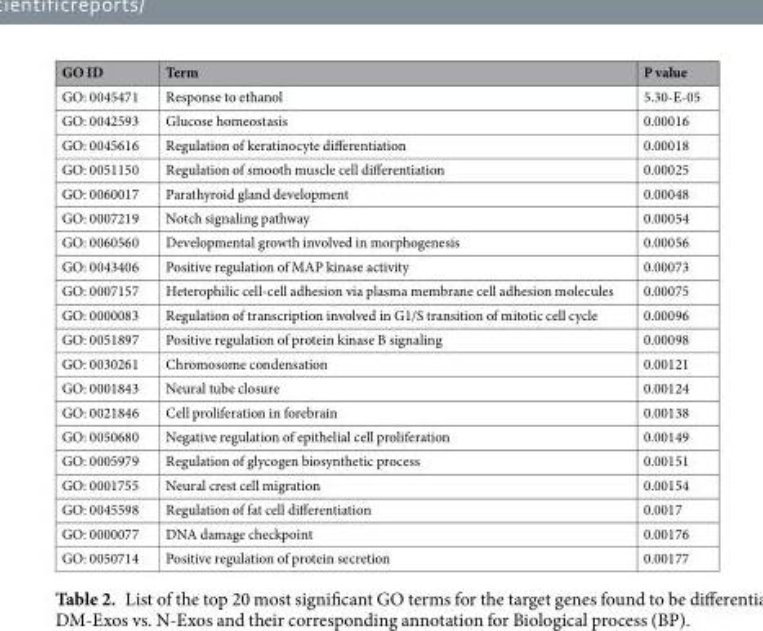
<table><thead><tr><td>GO ID</td><td>Term</td><td>P value</td></tr></thead><tbody><tr><td>GO: 0045471</td><td>Response to ethanol</td><td>5.30-E-05</td></tr><tr><td>GO: 0042593</td><td>Glucose homeostasis</td><td>0.00016</td></tr><tr><td>GO: 0045616</td><td>Regulation of keratinocyte differentiation</td><td>0.00018</td></tr><tr><td>GO: 0051150</td><td>Regulation of smooth muscle cell differentiation</td><td>0.00025</td></tr><tr><td>GO: 0060017</td><td>Parathyroid gland development</td><td>0.00048</td></tr><tr><td>GO: 0007219</td><td>Notch signaling pathway</td><td>0.00054</td></tr><tr><td>GO: 0060560</td><td>Developmental growth involved in morphogenesis</td><td>0.00056</td></tr><tr><td>GO: 0043406</td><td>Positive regulation of MAP kinase activity</td><td>0.00073</td></tr><tr><td>GO: 0007157</td><td>Heterophilic cell-cell adhesion via plasma membrane cell adhesion molecules</td><td>0.00075</td></tr><tr><td>GO: 0000083</td><td>Regulation of transcription involved in G1/S transition of mitotic cell cycle</td><td>0.00096</td></tr><tr><td>GO: 0051897</td><td>Positive regulation of protein kinase B signaling</td><td>0.00098</td></tr><tr><td>GO: 0030261</td><td>Chromosome condensation</td><td>0.00121</td></tr><tr><td>GO: 0001843</td><td>Neural tube closure</td><td>0.00124</td></tr><tr><td>GO: 0021846</td><td>Cell proliferation in forebrain</td><td>0.00138</td></tr><tr><td>GO: 0050680</td><td>Negative regulation of epithelial cell proliferation</td><td>0.00149</td></tr><tr><td>GO: 0005979</td><td>Regulation of glycogen biosynthetic process</td><td>0.00151</td></tr><tr><td>GO: 0001755</td><td>Neural crest cell migration</td><td>0.00154</td></tr><tr><td>GO: 0045598</td><td>Regulation of fat cell differentiation</td><td>0.0017</td></tr><tr><td>GO: 0000077</td><td>DNA damage checkpoint</td><td>0.00176</td></tr><tr><td>GO: 0050714</td><td>Positive regulation of protein secretion</td><td>0.00177</td></tr></tbody></table>